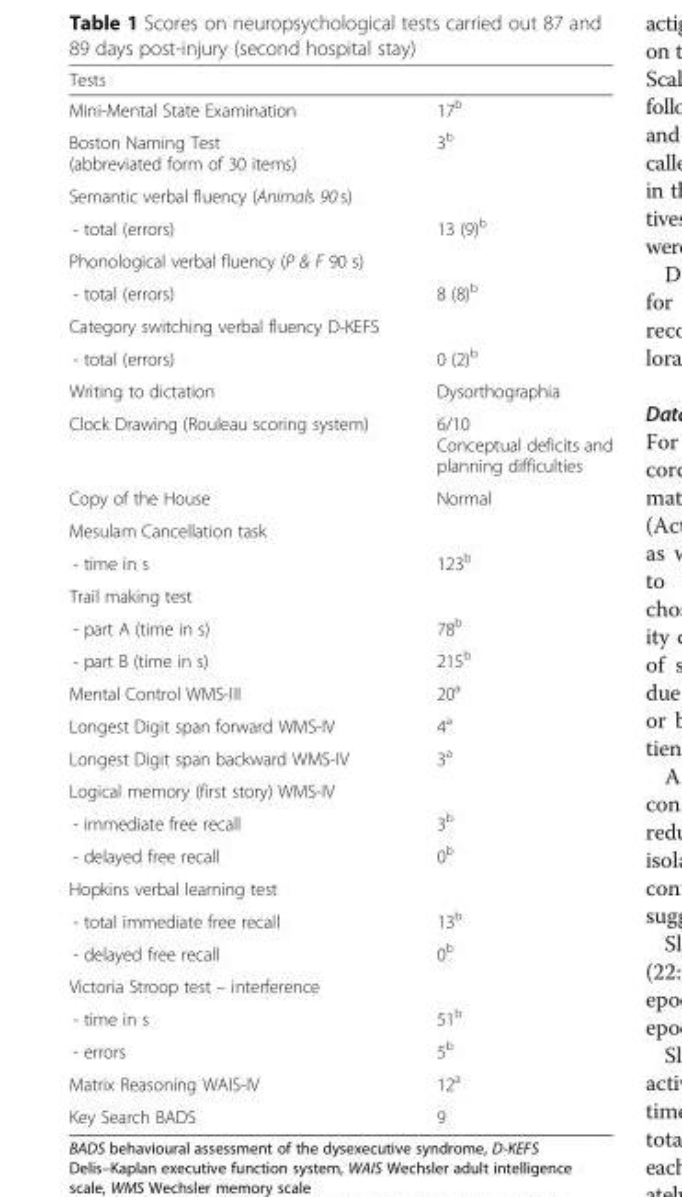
<table><thead><tr><td>Tests</td><td></td></tr></thead><tbody><tr><td>Mini-Mental State Examination</td><td>17<sup>b</sup></td></tr><tr><td>Boston Naming Test (abbreviated form of 30 items)</td><td>3<sup>b</sup></td></tr><tr><td colspan="2">Semantic verbal fluency (Animals 90 s)</td></tr><tr><td>- total (errors)</td><td>13 (9)<sup>b</sup></td></tr><tr><td colspan="2">Phonological verbal fluency (P &amp; F 90 s)</td></tr><tr><td>- total (errors)</td><td>8 (8)<sup>b</sup></td></tr><tr><td colspan="2">Category switching verbal fluency D-KEFS</td></tr><tr><td>- total (errors)</td><td>0 (2)<sup>b</sup></td></tr><tr><td>Writing to dictation</td><td>Dysorthographia</td></tr><tr><td>Clock Drawing (Rouleau scoring system)</td><td>6/10 Conceptual deficits and planning difficulties</td></tr><tr><td>Copy of the House</td><td>Normal</td></tr><tr><td colspan="2">Mesulam Cancellation task</td></tr><tr><td>- time in s</td><td>123<sup>b</sup></td></tr><tr><td colspan="2">Trail making test</td></tr><tr><td>- part A (time in s)</td><td>78<sup>b</sup></td></tr><tr><td>- part B (time in s)</td><td>215<sup>b</sup></td></tr><tr><td>Mental Control WMS-III</td><td>20<sup>a</sup></td></tr><tr><td>Longest Digit span forward WMS-IV</td><td>4<sup>a</sup></td></tr><tr><td>Longest Digit span backward WMS-IV</td><td>3<sup>a</sup></td></tr><tr><td colspan="2">Logical memory (first story) WMS-IV</td></tr><tr><td>- immediate free recall</td><td>3<sup>b</sup></td></tr><tr><td>- delayed free recall</td><td>0<sup>b</sup></td></tr><tr><td colspan="2">Hopkins verbal learning test</td></tr><tr><td>- total immediate free recall</td><td>13<sup>b</sup></td></tr><tr><td>- delayed free recall</td><td>0<sup>b</sup></td></tr><tr><td colspan="2">Victoria Stroop test – interference</td></tr><tr><td>- time in s</td><td>51<sup>b</sup></td></tr><tr><td>- errors</td><td>5<sup>b</sup></td></tr><tr><td>Matrix Reasoning WAIS-IV</td><td>12<sup>a</sup></td></tr><tr><td>Key Search BADS</td><td>9</td></tr></tbody></table>